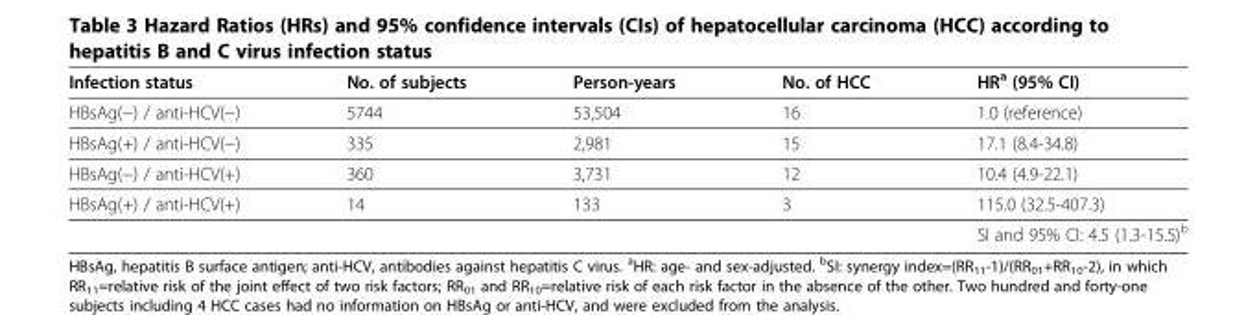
<table><thead><tr><td>Infection status</td><td>No. of subjects</td><td>Person-years</td><td>No. of HCC</td><td>HR<sup>a</sup> (95% CI)</td></tr></thead><tbody><tr><td>HBsAg(−) / anti-HCV(−)</td><td>5744</td><td>53,504</td><td>16</td><td>1.0 (reference)</td></tr><tr><td>HBsAg(+) / anti-HCV(−)</td><td>335</td><td>2,981</td><td>15</td><td>17.1 (8.4-34.8)</td></tr><tr><td>HBsAg(−) / anti-HCV(+)</td><td>360</td><td>3,731</td><td>12</td><td>10.4 (4.9-22.1)</td></tr><tr><td rowspan="2">HBsAg(+) / anti-HCV(+)</td><td>14</td><td>133</td><td>3</td><td>115.0 (32.5-407.3)</td></tr><tr><td></td><td></td><td></td><td>SI and 95% CI: 4.5 (1.3-15.5)<sup>b</sup></td></tr></tbody></table>